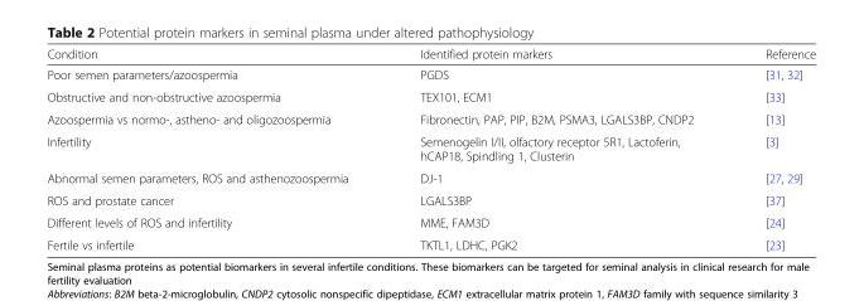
<table><thead><tr><td>Condition</td><td>Identified protein markers</td><td>Reference</td></tr></thead><tbody><tr><td>Poor semen parameters/azoospermia</td><td>PGDS</td><td>[31, 32]</td></tr><tr><td>Obstructive and non-obstructive azoospermia</td><td>TEX101, ECM1</td><td>[33]</td></tr><tr><td>Azoospermia vs normo-, astheno- and oligozoospermia</td><td>Fibronectin, PAP, PIP, B2M, PSMA3, LGALS3BP, CNDP2</td><td>[13]</td></tr><tr><td>Infertility</td><td>Semenogelin I/II, olfactory receptor 5R1, Lactoferin, hCAP18, Spindling 1, Clusterin</td><td>[3]</td></tr><tr><td>Abnormal semen parameters, ROS and asthenozoospermia</td><td>DJ-1</td><td>[27, 29]</td></tr><tr><td>ROS and prostate cancer</td><td>LGALS3BP</td><td>[37]</td></tr><tr><td>Different levels of ROS and infertility</td><td>MME, FAM3D</td><td>[24]</td></tr><tr><td>Fertile vs infertile</td><td>TKTL1, LDHC, PGK2</td><td>[23]</td></tr></tbody></table>